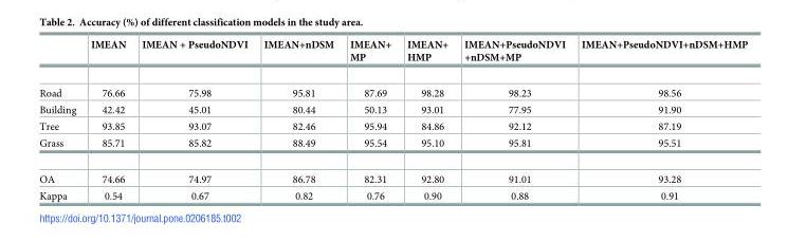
<table><thead><tr><td></td><td>IMEAN</td><td>IMEAN + PseudoNDVI</td><td>IMEAN+nDSM</td><td>IMEAN+ MP</td><td>IMEAN+ HMP</td><td>IMEAN+PseudoNDVI +nDSM+MP</td><td>IMEAN+PseudoNDVI+nDSM+HMP</td></tr></thead><tbody><tr><td>Road</td><td>76.66</td><td>75.98</td><td>95.81</td><td>87.69</td><td>98.28</td><td>98.23</td><td>98.56</td></tr><tr><td>Building</td><td>42.42</td><td>45.01</td><td>80.44</td><td>50.13</td><td>93.01</td><td>77.95</td><td>91.90</td></tr><tr><td>Tree</td><td>93.85</td><td>93.07</td><td>82.46</td><td>95.94</td><td>84.86</td><td>92.12</td><td>87.19</td></tr><tr><td>Grass</td><td>85.71</td><td>85.82</td><td>88.49</td><td>95.54</td><td>95.10</td><td>95.81</td><td>95.51</td></tr><tr><td>OA</td><td>74.66</td><td>74.97</td><td>86.78</td><td>82.31</td><td>92.80</td><td>91.01</td><td>93.28</td></tr><tr><td>Kappa</td><td>0.54</td><td>0.67</td><td>0.82</td><td>0.76</td><td>0.90</td><td>0.88</td><td>0.91</td></tr></tbody></table>